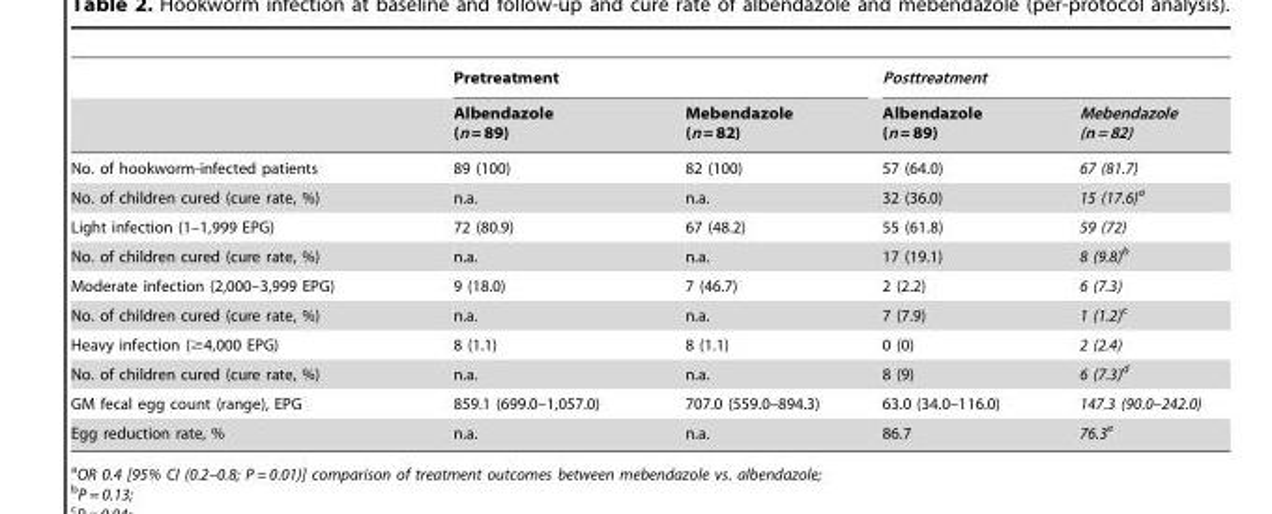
<table><thead><tr><td rowspan="2"></td><td colspan="2">Pretreatment</td><td colspan="2">Posttreatment</td></tr><tr><td>Albendazole (n = 89)</td><td>Mebendazole (n = 82)</td><td>Albendazole (n = 89)</td><td>Mebendazole (n = 82)</td></tr></thead><tbody><tr><td>No. of hookworm-infected patients</td><td>89 (100)</td><td>82 (100)</td><td>57 (64.0)</td><td>67 (81.7)</td></tr><tr><td>No. of children cured (cure rate, %)</td><td>n.a.</td><td>n.a.</td><td>32 (36.0)</td><td>15 (17.6)a</td></tr><tr><td>Light infection (1–1,999 EPG)</td><td>72 (80.9)</td><td>67 (48.2)</td><td>55 (61.8)</td><td>59 (72)</td></tr><tr><td>No. of children cured (cure rate, %)</td><td>n.a.</td><td>n.a.</td><td>17 (19.1)</td><td>8 (9.8)b</td></tr><tr><td>Moderate infection (2,000–3,999 EPG)</td><td>9 (18.0)</td><td>7 (46.7)</td><td>2 (2.2)</td><td>6 (7.3)</td></tr><tr><td>No. of children cured (cure rate, %)</td><td>n.a.</td><td>n.a.</td><td>7 (7.9)</td><td>1 (1.2)c</td></tr><tr><td>Heavy infection (≥4,000 EPG)</td><td>8 (1.1)</td><td>8 (1.1)</td><td>0 (0)</td><td>2 (2.4)</td></tr><tr><td>No. of children cured (cure rate, %)</td><td>n.a.</td><td>n.a.</td><td>8 (9)</td><td>6 (7.3)d</td></tr><tr><td>GM fecal egg count (range), EPG</td><td>859.1 (699.0–1,057.0)</td><td>707.0 (559.0–894.3)</td><td>63.0 (34.0–116.0)</td><td>147.3 (90.0–242.0)</td></tr><tr><td>Egg reduction rate, %</td><td>n.a.</td><td>n.a.</td><td>86.7</td><td>76.3e</td></tr></tbody></table>